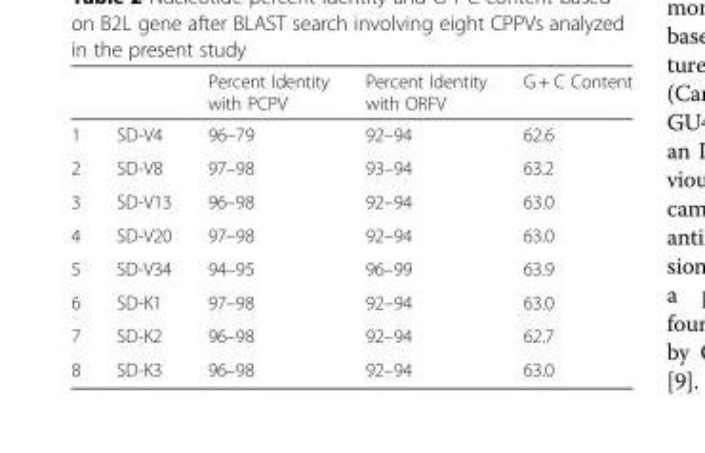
<table><thead><tr><td></td><td></td><td>Percent Identity with PCPV</td><td>Percent Identity with ORFV</td><td>G + C Content</td></tr></thead><tbody><tr><td>1</td><td>SD-V4</td><td>96–79</td><td>92–94</td><td>62.6</td></tr><tr><td>2</td><td>SD-V8</td><td>97–98</td><td>93–94</td><td>63.2</td></tr><tr><td>3</td><td>SD-V13</td><td>96–98</td><td>92–94</td><td>63.0</td></tr><tr><td>4</td><td>SD-V20</td><td>97–98</td><td>92–94</td><td>63.0</td></tr><tr><td>5</td><td>SD-V34</td><td>94–95</td><td>96–99</td><td>63.9</td></tr><tr><td>6</td><td>SD-K1</td><td>97–98</td><td>92–94</td><td>63.0</td></tr><tr><td>7</td><td>SD-K2</td><td>96–98</td><td>92–94</td><td>62.7</td></tr><tr><td>8</td><td>SD-K3</td><td>96–98</td><td>92–94</td><td>63.0</td></tr></tbody></table>